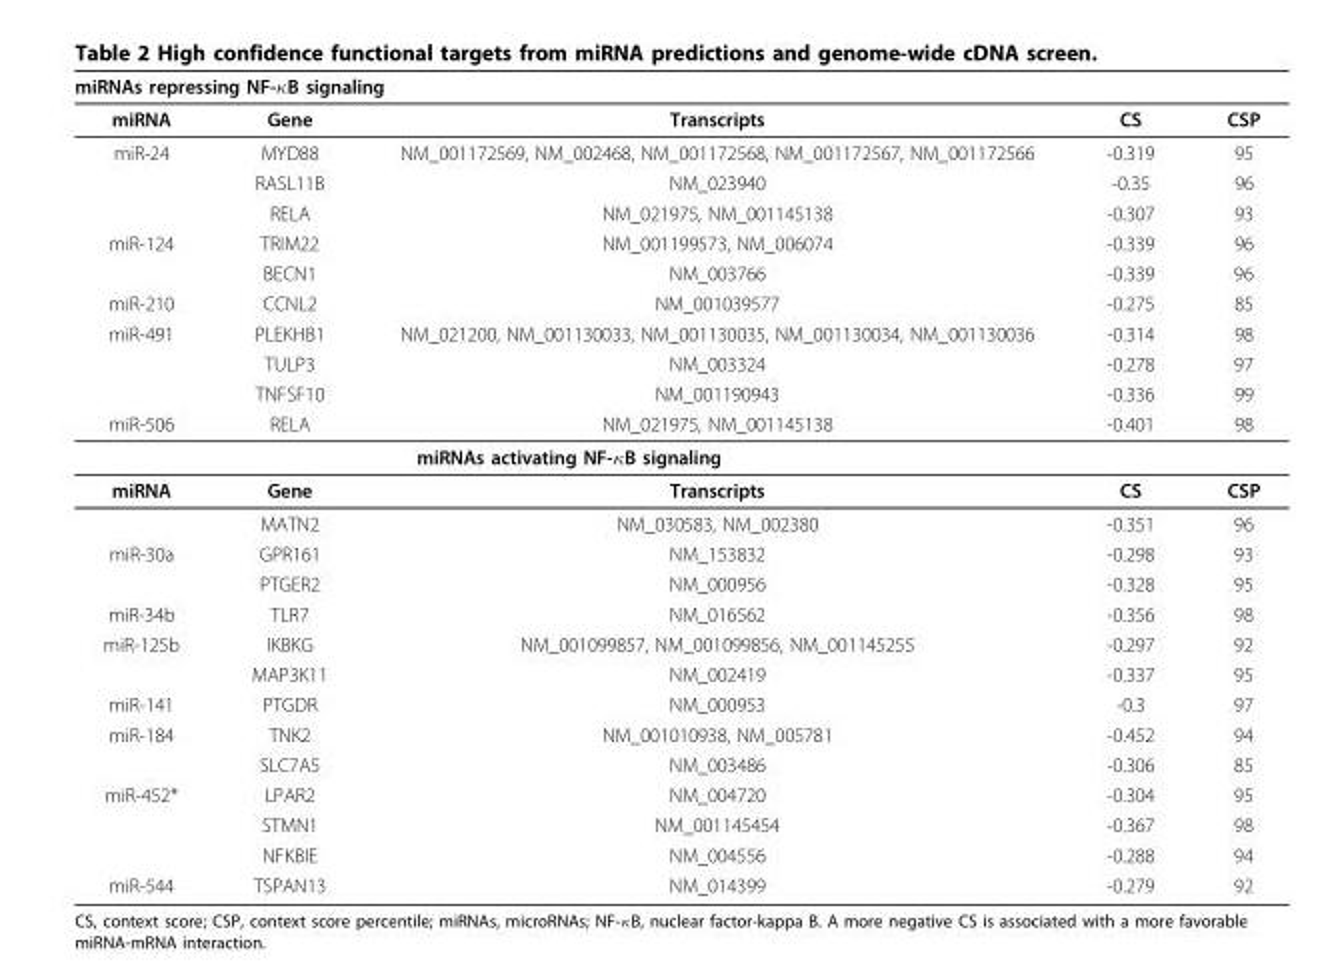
<table><thead><tr><td colspan="3">miRNAs repressing NF-κB signaling</td><td rowspan="2">CS</td><td rowspan="2">CSP</td></tr><tr><td>miRNA</td><td>Gene</td><td>Transcripts</td></tr></thead><tbody><tr><td rowspan="3">miR-24</td><td>MYD88</td><td>NM_001172569, NM_002468, NM_001172568, NM_001172567, NM_001172566</td><td>-0.319</td><td>95</td></tr><tr><td>RASL11B</td><td>NM_023940</td><td>-0.35</td><td>96</td></tr><tr><td>RELA</td><td>NM_021975, NM_001145138</td><td>-0.307</td><td>93</td></tr><tr><td rowspan="2">miR-124</td><td>TRIM22</td><td>NM_001199573, NM_006074</td><td>-0.339</td><td>96</td></tr><tr><td>BECN1</td><td>NM_003766</td><td>-0.339</td><td>96</td></tr><tr><td>miR-210</td><td>CCNL2</td><td>NM_001039577</td><td>-0.275</td><td>85</td></tr><tr><td rowspan="3">miR-491</td><td>PLEKHB1</td><td>NM_021200, NM_001130033, NM_001130035, NM_001130034, NM_001130036</td><td>-0.314</td><td>98</td></tr><tr><td>TULP3</td><td>NM_003324</td><td>-0.278</td><td>97</td></tr><tr><td>TNFSF10</td><td>NM_001190943</td><td>-0.336</td><td>99</td></tr><tr><td>miR-506</td><td>RELA</td><td>NM_021975, NM_001145138</td><td>-0.401</td><td>98</td></tr><tr><td colspan="5">miRNAs activating NF-κB signaling</td></tr><tr><td rowspan="2">miRNA</td><td>Gene</td><td>Transcripts</td><td>CS</td><td>CSP</td></tr><tr><td>MATN2</td><td>NM_030583, NM_002380</td><td>-0.351</td><td>96</td></tr><tr><td rowspan="2">miR-30a</td><td>GPR161</td><td>NM_153832</td><td>-0.298</td><td>93</td></tr><tr><td>PTGER2</td><td>NM_000956</td><td>-0.328</td><td>95</td></tr><tr><td>miR-34b</td><td>TLR7</td><td>NM_016562</td><td>-0.356</td><td>98</td></tr><tr><td rowspan="2">miR-125b</td><td>IKBKG</td><td>NM_001099857, NM_001099856, NM_001145255</td><td>-0.297</td><td>92</td></tr><tr><td>MAP3K11</td><td>NM_002419</td><td>-0.337</td><td>95</td></tr><tr><td>miR-141</td><td>PTGDR</td><td>NM_000953</td><td>-0.3</td><td>97</td></tr><tr><td rowspan="2">miR-184</td><td>TNK2</td><td>NM_001010938, NM_005781</td><td>-0.452</td><td>94</td></tr><tr><td>SLC7A5</td><td>NM_003486</td><td>-0.306</td><td>85</td></tr><tr><td rowspan="3">miR-452*</td><td>LPAR2</td><td>NM_004720</td><td>-0.304</td><td>95</td></tr><tr><td>STMN1</td><td>NM_001145454</td><td>-0.367</td><td>98</td></tr><tr><td>NFKBIE</td><td>NM_004556</td><td>-0.288</td><td>94</td></tr><tr><td>miR-544</td><td>TSPAN13</td><td>NM_014399</td><td>-0.279</td><td>92</td></tr></tbody></table>